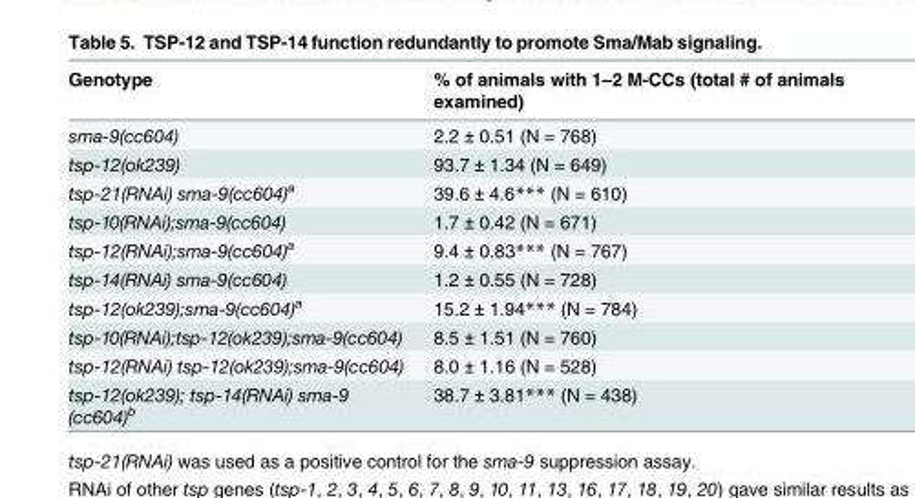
<table><thead><tr><td>Genotype</td><td>% of animals with 1–2 M-CCs (total # of animals examined)</td></tr></thead><tbody><tr><td>sma-9(cc604)</td><td>2.2 ± 0.51 (N = 768)</td></tr><tr><td>tsp-12(ok239)</td><td>93.7 ± 1.34 (N = 649)</td></tr><tr><td>tsp-21(RNAi) sma-9(cc604)<sup>a</sup></td><td>39.6 ± 4.6*** (N = 610)</td></tr><tr><td>tsp-10(RNAi);sma-9(cc604)</td><td>1.7 ± 0.42 (N = 671)</td></tr><tr><td>tsp-12(RNAi);sma-9(cc604)<sup>a</sup></td><td>9.4 ± 0.83*** (N = 767)</td></tr><tr><td>tsp-14(RNAi) sma-9(cc604)</td><td>1.2 ± 0.55 (N = 728)</td></tr><tr><td>tsp-12(ok239);sma-9(cc604)<sup>a</sup></td><td>15.2 ± 1.94*** (N = 784)</td></tr><tr><td>tsp-10(RNAi);tsp-12(ok239);sma-9(cc604)</td><td>8.5 ± 1.51 (N = 760)</td></tr><tr><td>tsp-12(RNAi) tsp-12(ok239);sma-9(cc604)</td><td>8.0 ± 1.16 (N = 528)</td></tr><tr><td>tsp-12(ok239); tsp-14(RNAi) sma-9 (cc604)<sup>b</sup></td><td>38.7 ± 3.81*** (N = 438)</td></tr></tbody></table>